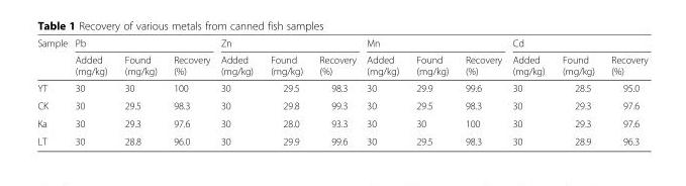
<table><thead><tr><td rowspan="2">Sample</td><td colspan="3">Pb</td><td colspan="3">Zn</td><td colspan="3">Mn</td><td colspan="3">Cd</td></tr><tr><td>Added (mg/kg)</td><td>Found (mg/kg)</td><td>Recovery (%)</td><td>Added (mg/kg)</td><td>Found (mg/kg)</td><td>Recovery (%)</td><td>Added (mg/kg)</td><td>Found (mg/kg)</td><td>Recovery (%)</td><td>Added (mg/kg)</td><td>Found (mg/kg)</td><td>Recovery (%)</td></tr></thead><tbody><tr><td>YT</td><td>30</td><td>30</td><td>100</td><td>30</td><td>29.5</td><td>98.3</td><td>30</td><td>29.9</td><td>99.6</td><td>30</td><td>28.5</td><td>95.0</td></tr><tr><td>CK</td><td>30</td><td>29.5</td><td>98.3</td><td>30</td><td>29.8</td><td>99.3</td><td>30</td><td>29.5</td><td>98.3</td><td>30</td><td>29.3</td><td>97.6</td></tr><tr><td>Ka</td><td>30</td><td>29.3</td><td>97.6</td><td>30</td><td>28.0</td><td>93.3</td><td>30</td><td>30</td><td>100</td><td>30</td><td>29.3</td><td>97.6</td></tr><tr><td>LT</td><td>30</td><td>28.8</td><td>96.0</td><td>30</td><td>29.9</td><td>99.6</td><td>30</td><td>29.5</td><td>98.3</td><td>30</td><td>28.9</td><td>96.3</td></tr></tbody></table>